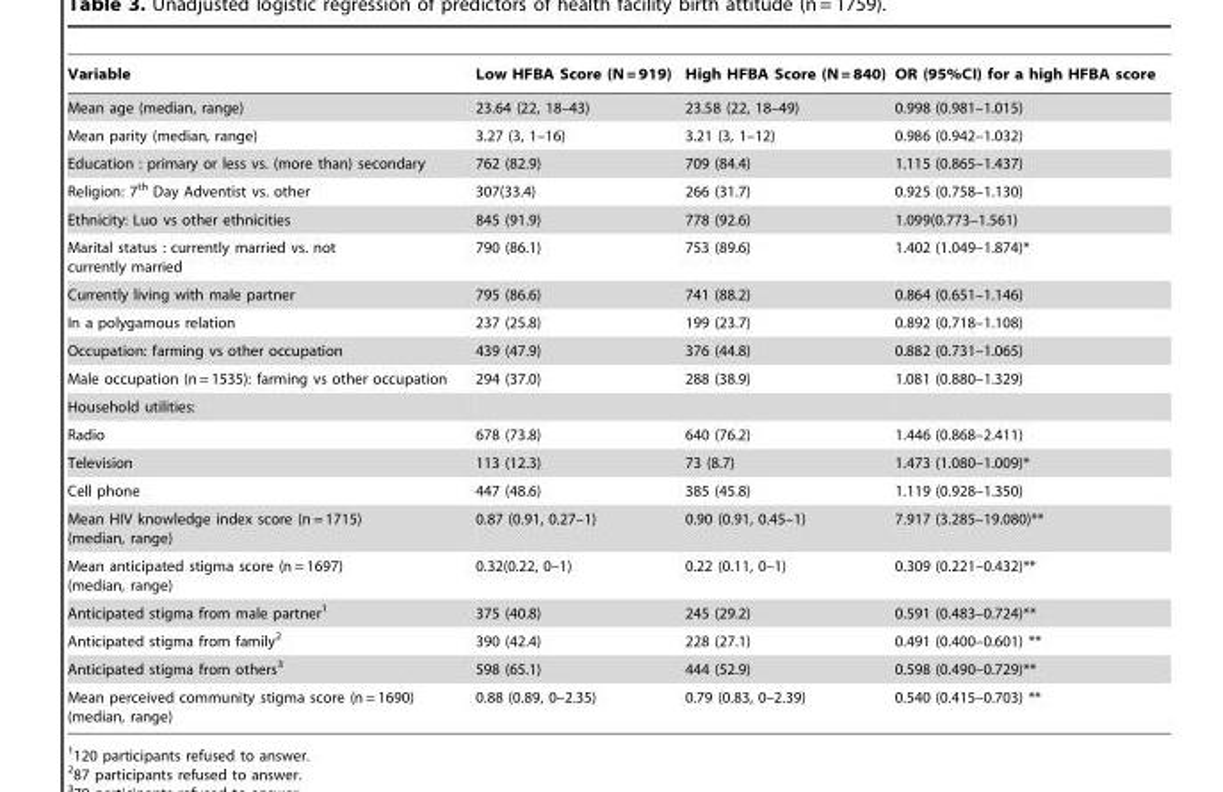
<table><thead><tr><td>Variable</td><td>Low HFBA Score (N = 919)</td><td>High HFBA Score (N = 840)</td><td>OR (95%CI) for a high HFBA score</td></tr></thead><tbody><tr><td>Mean age (median, range)</td><td>23.64 (22, 18–43)</td><td>23.58 (22, 18–49)</td><td>0.998 (0.981–1.015)</td></tr><tr><td>Mean parity (median, range)</td><td>3.27 (3, 1–16)</td><td>3.21 (3, 1–12)</td><td>0.986 (0.942–1.032)</td></tr><tr><td>Education : primary or less vs. (more than) secondary</td><td>762 (82.9)</td><td>709 (84.4)</td><td>1.115 (0.865–1.437)</td></tr><tr><td>Religion: 7<sup>th</sup> Day Adventist vs. other</td><td>307(33.4)</td><td>266 (31.7)</td><td>0.925 (0.758–1.130)</td></tr><tr><td>Ethnicity: Luo vs other ethnicities</td><td>845 (91.9)</td><td>778 (92.6)</td><td>1.099(0.773–1.561)</td></tr><tr><td>Marital status : currently married vs. not currently married</td><td>790 (86.1)</td><td>753 (89.6)</td><td>1.402 (1.049–1.874)*</td></tr><tr><td>Currently living with male partner</td><td>795 (86.6)</td><td>741 (88.2)</td><td>0.864 (0.651–1.146)</td></tr><tr><td>In a polygamous relation</td><td>237 (25.8)</td><td>199 (23.7)</td><td>0.892 (0.718–1.108)</td></tr><tr><td>Occupation: farming vs other occupation</td><td>439 (47.9)</td><td>376 (44.8)</td><td>0.882 (0.731–1.065)</td></tr><tr><td>Male occupation (n = 1535): farming vs other occupation</td><td>294 (37.0)</td><td>288 (38.9)</td><td>1.081 (0.880–1.329)</td></tr><tr><td colspan="4">Household utilities:</td></tr><tr><td>Radio</td><td>678 (73.8)</td><td>640 (76.2)</td><td>1.446 (0.868–2.411)</td></tr><tr><td>Television</td><td>113 (12.3)</td><td>73 (8.7)</td><td>1.473 (1.080–1.009)*</td></tr><tr><td>Cell phone</td><td>447 (48.6)</td><td>385 (45.8)</td><td>1.119 (0.928–1.350)</td></tr><tr><td>Mean HIV knowledge index score (n = 1715) (median, range)</td><td>0.87 (0.91, 0.27–1)</td><td>0.90 (0.91, 0.45–1)</td><td>7.917 (3.285–19.080)**</td></tr><tr><td>Mean anticipated stigma score (n = 1697) (median, range)</td><td>0.32(0.22, 0–1)</td><td>0.22 (0.11, 0–1)</td><td>0.309 (0.221–0.432)**</td></tr><tr><td>Anticipated stigma from male partner<sup>1</sup></td><td>375 (40.8)</td><td>245 (29.2)</td><td>0.591 (0.483–0.724)**</td></tr><tr><td>Anticipated stigma from family<sup>2</sup></td><td>390 (42.4)</td><td>228 (27.1)</td><td>0.491 (0.400–0.601) **</td></tr><tr><td>Anticipated stigma from others<sup>3</sup></td><td>598 (65.1)</td><td>444 (52.9)</td><td>0.598 (0.490–0.729)**</td></tr><tr><td>Mean perceived community stigma score (n = 1690) (median, range)</td><td>0.88 (0.89, 0–2.35)</td><td>0.79 (0.83, 0–2.39)</td><td>0.540 (0.415–0.703) **</td></tr></tbody></table>